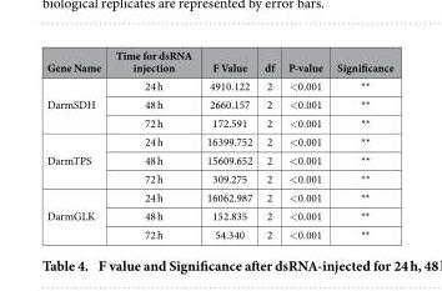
<table><thead><tr><td>Gene Name</td><td>Time for dsRNA injection</td><td>F Value</td><td>df</td><td>P-value</td><td>Significance</td></tr></thead><tbody><tr><td rowspan="3">DarmSDH</td><td>24 h</td><td>4910.122</td><td>2</td><td>&lt; 0.001</td><td>**</td></tr><tr><td>48 h</td><td>2660.157</td><td>2</td><td>&lt; 0.001</td><td>**</td></tr><tr><td>72 h</td><td>172.591</td><td>2</td><td>&lt; 0.001</td><td>**</td></tr><tr><td rowspan="3">DarmTPS</td><td>24 h</td><td>16399.752</td><td>2</td><td>&lt; 0.001</td><td>**</td></tr><tr><td>48 h</td><td>15609.652</td><td>2</td><td>&lt; 0.001</td><td>**</td></tr><tr><td>72 h</td><td>309.275</td><td>2</td><td>&lt; 0.001</td><td>**</td></tr><tr><td rowspan="3">DarmGLK</td><td>24 h</td><td>16062.987</td><td>2</td><td>&lt; 0.001</td><td>**</td></tr><tr><td>48 h</td><td>152.835</td><td>2</td><td>&lt; 0.001</td><td>**</td></tr><tr><td>72 h</td><td>54.340</td><td>2</td><td>&lt; 0.001</td><td>**</td></tr></tbody></table>